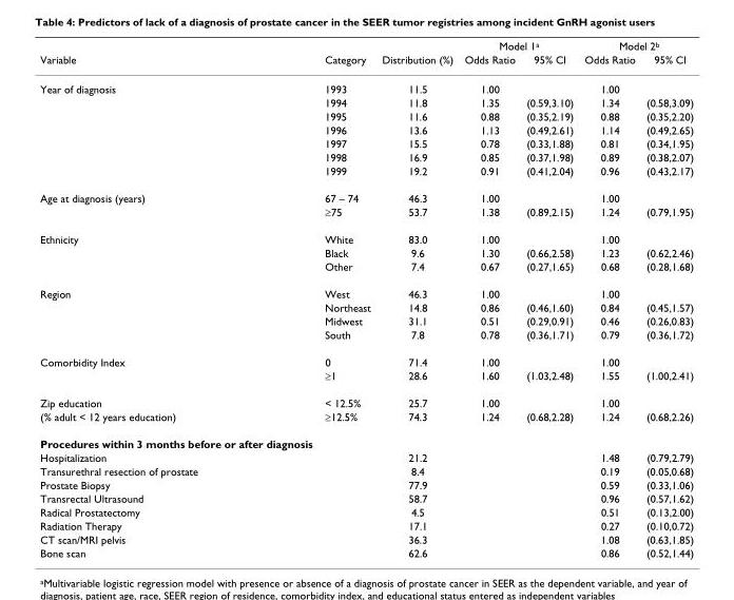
<table><thead><tr><td rowspan="2">Variable</td><td rowspan="2">Category</td><td rowspan="2">Distribution (%)</td><td colspan="2">Model 1<sup>a</sup></td><td colspan="2">Model 2<sup>b</sup></td></tr><tr><td>Odds Ratio</td><td>95% CI</td><td>Odds Ratio</td><td>95% CI</td></tr></thead><tbody><tr><td rowspan="7">Year of diagnosis</td><td>1993</td><td>11.5</td><td>1.00</td><td></td><td>1.00</td><td></td></tr><tr><td>1994</td><td>11.8</td><td>1.35</td><td>(0.59,3.10)</td><td>1.34</td><td>(0.58,3.09)</td></tr><tr><td>1995</td><td>11.6</td><td>0.88</td><td>(0.35,2.19)</td><td>0.88</td><td>(0.35,2.20)</td></tr><tr><td>1996</td><td>13.6</td><td>1.13</td><td>(0.49,2.61)</td><td>1.14</td><td>(0.49,2.65)</td></tr><tr><td>1997</td><td>15.5</td><td>0.78</td><td>(0.33,1.88)</td><td>0.81</td><td>(0.34,1.95)</td></tr><tr><td>1998</td><td>16.9</td><td>0.85</td><td>(0.37,1.98)</td><td>0.89</td><td>(0.38,2.07)</td></tr><tr><td>1999</td><td>19.2</td><td>0.91</td><td>(0.41,2.04)</td><td>0.96</td><td>(0.43,2.17)</td></tr><tr><td rowspan="2">Age at diagnosis (years)</td><td>67 – 74</td><td>46.3</td><td>1.00</td><td></td><td>1.00</td><td></td></tr><tr><td>≥75</td><td>53.7</td><td>1.38</td><td>(0.89,2.15)</td><td>1.24</td><td>(0.79,1.95)</td></tr><tr><td rowspan="3">Ethnicity</td><td>White</td><td>83.0</td><td>1.00</td><td></td><td>1.00</td><td></td></tr><tr><td>Black</td><td>9.6</td><td>1.30</td><td>(0.66,2.58)</td><td>1.23</td><td>(0.62,2.46)</td></tr><tr><td>Other</td><td>7.4</td><td>0.67</td><td>(0.27,1.65)</td><td>0.68</td><td>(0.28,1.68)</td></tr><tr><td rowspan="4">Region</td><td>West</td><td>46.3</td><td>1.00</td><td></td><td>1.00</td><td></td></tr><tr><td>Northeast</td><td>14.8</td><td>0.86</td><td>(0.46,1.60)</td><td>0.84</td><td>(0.45,1.57)</td></tr><tr><td>Midwest</td><td>31.1</td><td>0.51</td><td>(0.29,0.91)</td><td>0.46</td><td>(0.26,0.83)</td></tr><tr><td>South</td><td>7.8</td><td>0.78</td><td>(0.36,1.71)</td><td>0.79</td><td>(0.36,1.72)</td></tr><tr><td rowspan="2">Comorbidity Index</td><td>0</td><td>71.4</td><td>1.00</td><td></td><td>1.00</td><td></td></tr><tr><td>≥1</td><td>28.6</td><td>1.60</td><td>(1.03,2.48)</td><td>1.55</td><td>(1.00,2.41)</td></tr><tr><td>Zip education</td><td>&lt; 12.5%</td><td>25.7</td><td>1.00</td><td></td><td>1.00</td><td></td></tr><tr><td>(% adult &lt; 12 years education)</td><td>≥12.5%</td><td>74.3</td><td>1.24</td><td>(0.68,2.28)</td><td>1.24</td><td>(0.68,2.26)</td></tr><tr><td colspan="7">Procedures within 3 months before or after diagnosis</td></tr><tr><td>Hospitalization</td><td></td><td>21.2</td><td></td><td></td><td>1.48</td><td>(0.79,2.79)</td></tr><tr><td>Transurethral resection of prostate</td><td></td><td>8.4</td><td></td><td></td><td>0.19</td><td>(0.05,0.68)</td></tr><tr><td>Prostate Biopsy</td><td></td><td>77.9</td><td></td><td></td><td>0.59</td><td>(0.33,1.06)</td></tr><tr><td>Transrectal Ultrasound</td><td></td><td>58.7</td><td></td><td></td><td>0.96</td><td>(0.57,1.62)</td></tr><tr><td>Radical Prostatectomy</td><td></td><td>4.5</td><td></td><td></td><td>0.51</td><td>(0.13,2.00)</td></tr><tr><td>Radiation Therapy</td><td></td><td>17.1</td><td></td><td></td><td>0.27</td><td>(0.10,0.72)</td></tr><tr><td>CT scan/MRI pelvis</td><td></td><td>36.3</td><td></td><td></td><td>1.08</td><td>(0.63,1.85)</td></tr><tr><td>Bone scan</td><td></td><td>62.6</td><td></td><td></td><td>0.86</td><td>(0.52,1.44)</td></tr></tbody></table>